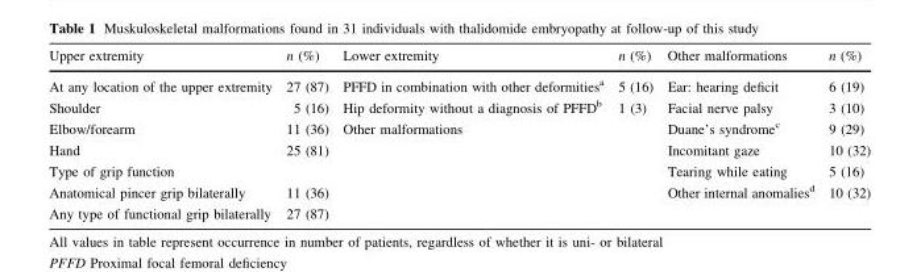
<table><thead><tr><td>Upper extremity</td><td>n (%)</td><td>Lower extremity</td><td>n (%)</td><td>Other malformations</td><td>n (%)</td></tr></thead><tbody><tr><td>At any location of the upper extremity</td><td>27 (87)</td><td>PFFD in combination with other deformities<sup>a</sup></td><td>5 (16)</td><td>Ear: hearing deficit</td><td>6 (19)</td></tr><tr><td>Shoulder</td><td>5 (16)</td><td>Hip deformity without a diagnosis of PFFD<sup>b</sup></td><td>1 (3)</td><td>Facial nerve palsy</td><td>3 (10)</td></tr><tr><td>Elbow/forearm</td><td>11 (36)</td><td>Other malformations</td><td></td><td>Duane’s syndrome<sup>c</sup></td><td>9 (29)</td></tr><tr><td>Hand</td><td>25 (81)</td><td></td><td></td><td>Incomitant gaze</td><td>10 (32)</td></tr><tr><td>Type of grip function</td><td></td><td></td><td></td><td>Tearing while eating</td><td>5 (16)</td></tr><tr><td>Anatomical pincer grip bilaterally</td><td>11 (36)</td><td></td><td></td><td>Other internal anomalies<sup>d</sup></td><td>10 (32)</td></tr><tr><td>Any type of functional grip bilaterally</td><td>27 (87)</td><td></td><td></td><td></td><td></td></tr></tbody></table>